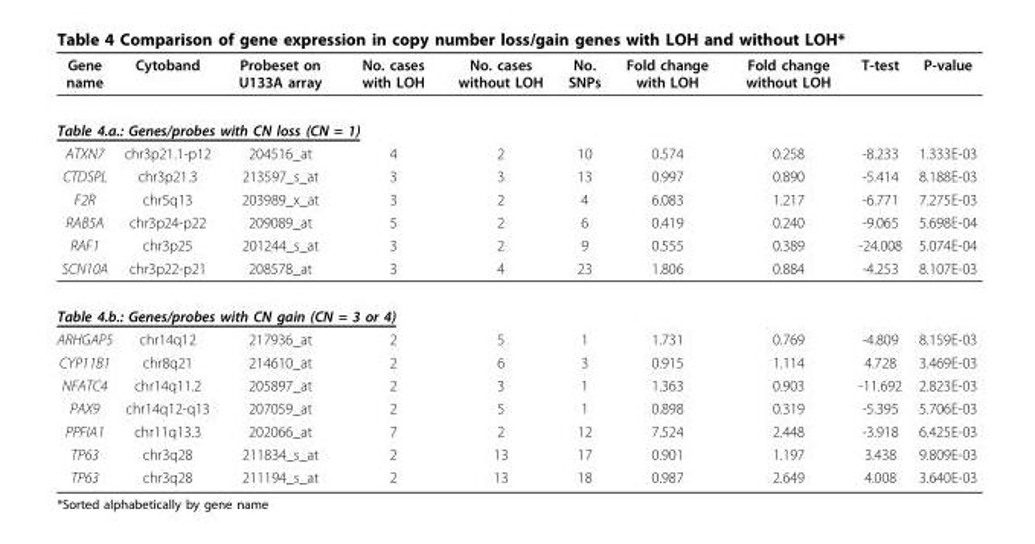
<table><thead><tr><td>Gene name</td><td>Cytoband</td><td>Probeset on U133A array</td><td>No. cases with LOH</td><td>No. cases without LOH</td><td>No. SNPs</td><td>Fold change with LOH</td><td>Fold change without LOH</td><td>T-test</td><td>P-value</td></tr></thead><tbody><tr><td colspan="10">Table 4.a.: Genes/probes with CN loss (CN = 1)</td></tr><tr><td>ATXN7</td><td>chr3p21.1-p12</td><td>204516_at</td><td>4</td><td>2</td><td>10</td><td>0.574</td><td>0.258</td><td>-8.233</td><td>1.333E-03</td></tr><tr><td>CTDSPL</td><td>chr3p21.3</td><td>213597_s_at</td><td>3</td><td>3</td><td>13</td><td>0.997</td><td>0.890</td><td>-5.414</td><td>8.188E-03</td></tr><tr><td>F2R</td><td>chr5q13</td><td>203989_x_at</td><td>3</td><td>2</td><td>4</td><td>6.083</td><td>1.217</td><td>-6.771</td><td>7.275E-03</td></tr><tr><td>RAB5A</td><td>chr3p24-p22</td><td>209089_at</td><td>5</td><td>2</td><td>6</td><td>0.419</td><td>0.240</td><td>-9.065</td><td>5.698E-04</td></tr><tr><td>RAF1</td><td>chr3p25</td><td>201244_s_at</td><td>3</td><td>2</td><td>9</td><td>0.555</td><td>0.389</td><td>-24.008</td><td>5.074E-04</td></tr><tr><td>SCN10A</td><td>chr3p22-p21</td><td>208578_at</td><td>3</td><td>4</td><td>23</td><td>1.806</td><td>0.884</td><td>-4.253</td><td>8.107E-03</td></tr><tr><td colspan="10">Table 4.b.: Genes/probes with CN gain (CN = 3 or 4)</td></tr><tr><td>ARHGAP5</td><td>chr14q12</td><td>217936_at</td><td>2</td><td>5</td><td>1</td><td>1.731</td><td>0.769</td><td>-4.809</td><td>8.159E-03</td></tr><tr><td>CYP11B1</td><td>chr8q21</td><td>214610_at</td><td>2</td><td>6</td><td>3</td><td>0.915</td><td>1.114</td><td>4.728</td><td>3.469E-03</td></tr><tr><td>NFATC4</td><td>chr14q11.2</td><td>205897_at</td><td>2</td><td>3</td><td>1</td><td>1.363</td><td>0.903</td><td>-11.692</td><td>2.823E-03</td></tr><tr><td>PAX9</td><td>chr14q12-q13</td><td>207059_at</td><td>2</td><td>5</td><td>1</td><td>0.898</td><td>0.319</td><td>-5.395</td><td>5.706E-03</td></tr><tr><td>PPFIA1</td><td>chr11q13.3</td><td>202066_at</td><td>7</td><td>2</td><td>12</td><td>7.524</td><td>2.448</td><td>-3.918</td><td>6.425E-03</td></tr><tr><td>TP63</td><td>chr3q28</td><td>211834_s_at</td><td>2</td><td>13</td><td>17</td><td>0.901</td><td>1.197</td><td>3.438</td><td>9.809E-03</td></tr><tr><td>TP63</td><td>chr3q28</td><td>211194_s_at</td><td>2</td><td>13</td><td>18</td><td>0.987</td><td>2.649</td><td>4.008</td><td>3.640E-03</td></tr></tbody></table>